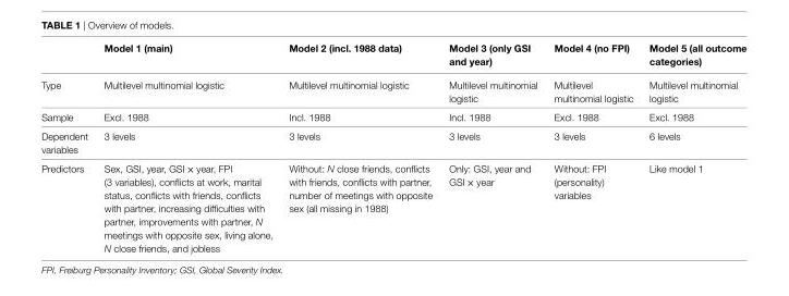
<table><thead><tr><td></td><td>Model 1 (main)</td><td>Model 2 (incl. 1988 data)</td><td>Model 3 (only gsi and year)</td><td>Model 4 (no FPi)</td><td>Model 5 (all outcome categories)</td></tr></thead><tbody><tr><td>Type</td><td>Multilevel multinomial logistic</td><td>Multilevel multinomial logistic</td><td>Multilevel multinomial logistic</td><td>Multilevel multinomial logistic</td><td>Multilevel multinomial logistic</td></tr><tr><td>Sample</td><td>Excl. 1988</td><td>Incl. 1988</td><td>Incl. 1988</td><td>Excl. 1988</td><td>Excl. 1988</td></tr><tr><td>Dependent variables</td><td>3 levels</td><td>3 levels</td><td>3 levels</td><td>3 levels</td><td>6 levels</td></tr><tr><td>Predictors</td><td>Sex, GSI, year, GSI × year, FPI (3 variables), conflicts at work, marital status, conflicts with friends, conflicts with partner, increasing difficulties with partner, improvements with partner, N meetings with opposite sex, living alone, N close friends, and jobless</td><td>Without: N close friends, conflicts with friends, conflicts with partner, number of meetings with opposite sex (all missing in 1988)</td><td>Only: GSI, year and GSI × year</td><td>Without: FPI (personality) variables</td><td>Like model 1</td></tr></tbody></table>